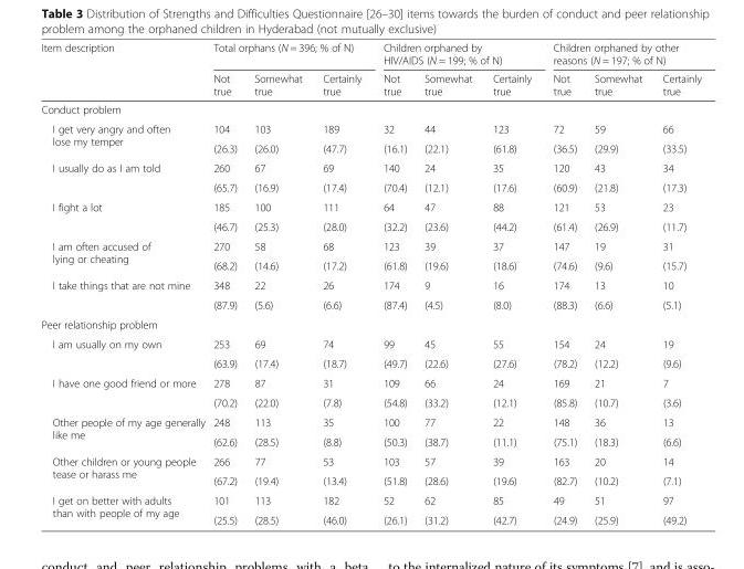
<table><thead><tr><td rowspan="2">Item description</td><td colspan="3">Total orphans (N = 396; % of N)</td><td colspan="3">Children orphaned by HIV/AIDS (N = 199; % of N)</td><td colspan="3">Children orphaned by other reasons (N = 197; % of N)</td></tr><tr><td>Not true</td><td>Somewhat true</td><td>Certainly true</td><td>Not true</td><td>Somewhat true</td><td>Certainly true</td><td>Not true</td><td>Somewhat true</td><td>Certainly true</td></tr></thead><tbody><tr><td colspan="10">Conduct problem</td></tr><tr><td rowspan="2">I get very angry and often lose my temper</td><td>104</td><td>103</td><td>189</td><td>32</td><td>44</td><td>123</td><td>72</td><td>59</td><td>66</td></tr><tr><td>(26.3)</td><td>(26.0)</td><td>(47.7)</td><td>(16.1)</td><td>(22.1)</td><td>(61.8)</td><td>(36.5)</td><td>(29.9)</td><td>(33.5)</td></tr><tr><td rowspan="2">I usually do as I am told</td><td>260</td><td>67</td><td>69</td><td>140</td><td>24</td><td>35</td><td>120</td><td>43</td><td>34</td></tr><tr><td>(65.7)</td><td>(16.9)</td><td>(17.4)</td><td>(70.4)</td><td>(12.1)</td><td>(17.6)</td><td>(60.9)</td><td>(21.8)</td><td>(17.3)</td></tr><tr><td rowspan="2">I fight a lot</td><td>185</td><td>100</td><td>111</td><td>64</td><td>47</td><td>88</td><td>121</td><td>53</td><td>23</td></tr><tr><td>(46.7)</td><td>(25.3)</td><td>(28.0)</td><td>(32.2)</td><td>(23.6)</td><td>(44.2)</td><td>(61.4)</td><td>(26.9)</td><td>(11.7)</td></tr><tr><td rowspan="2">I am often accused of lying or cheating</td><td>270</td><td>58</td><td>68</td><td>123</td><td>39</td><td>37</td><td>147</td><td>19</td><td>31</td></tr><tr><td>(68.2)</td><td>(14.6)</td><td>(17.2)</td><td>(61.8)</td><td>(19.6)</td><td>(18.6)</td><td>(74.6)</td><td>(9.6)</td><td>(15.7)</td></tr><tr><td rowspan="2">I take things that are not mine</td><td>348</td><td>22</td><td>26</td><td>174</td><td>9</td><td>16</td><td>174</td><td>13</td><td>10</td></tr><tr><td>(87.9)</td><td>(5.6)</td><td>(6.6)</td><td>(87.4)</td><td>(4.5)</td><td>(8.0)</td><td>(88.3)</td><td>(6.6)</td><td>(5.1)</td></tr><tr><td colspan="10">Peer relationship problem</td></tr><tr><td rowspan="2">I am usually on my own</td><td>253</td><td>69</td><td>74</td><td>99</td><td>45</td><td>55</td><td>154</td><td>24</td><td>19</td></tr><tr><td>(63.9)</td><td>(17.4)</td><td>(18.7)</td><td>(49.7)</td><td>(22.6)</td><td>(27.6)</td><td>(78.2)</td><td>(12.2)</td><td>(9.6)</td></tr><tr><td rowspan="2">I have one good friend or more</td><td>278</td><td>87</td><td>31</td><td>109</td><td>66</td><td>24</td><td>169</td><td>21</td><td>7</td></tr><tr><td>(70.2)</td><td>(22.0)</td><td>(7.8)</td><td>(54.8)</td><td>(33.2)</td><td>(12.1)</td><td>(85.8)</td><td>(10.7)</td><td>(3.6)</td></tr><tr><td rowspan="2">Other people of my age generally like me</td><td>248</td><td>113</td><td>35</td><td>100</td><td>77</td><td>22</td><td>148</td><td>36</td><td>13</td></tr><tr><td>(62.6)</td><td>(28.5)</td><td>(8.8)</td><td>(50.3)</td><td>(38.7)</td><td>(11.1)</td><td>(75.1)</td><td>(18.3)</td><td>(6.6)</td></tr><tr><td rowspan="2">Other children or young people tease or harass me</td><td>266</td><td>77</td><td>53</td><td>103</td><td>57</td><td>39</td><td>163</td><td>20</td><td>14</td></tr><tr><td>(67.2)</td><td>(19.4)</td><td>(13.4)</td><td>(51.8)</td><td>(28.6)</td><td>(19.6)</td><td>(82.7)</td><td>(10.2)</td><td>(7.1)</td></tr><tr><td rowspan="2">I get on better with adults than with people of my age</td><td>101</td><td>113</td><td>182</td><td>52</td><td>62</td><td>85</td><td>49</td><td>51</td><td>97</td></tr><tr><td>(25.5)</td><td>(28.5)</td><td>(46.0)</td><td>(26.1)</td><td>(31.2)</td><td>(42.7)</td><td>(24.9)</td><td>(25.9)</td><td>(49.2)</td></tr></tbody></table>